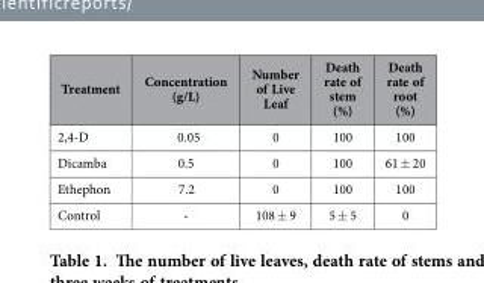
<table><thead><tr><td>Treatment</td><td>Concentration (g/L)</td><td>Number of Live Leaf</td><td>Death rate of stem (%)</td><td>Death rate of root (%)</td></tr></thead><tbody><tr><td>2,4-D</td><td>0.05</td><td>0</td><td>100</td><td>100</td></tr><tr><td>Dicamba</td><td>0.5</td><td>0</td><td>100</td><td>61 ± 20</td></tr><tr><td>Ethephon</td><td>7.2</td><td>0</td><td>100</td><td>100</td></tr><tr><td>Control</td><td>-</td><td>108 ± 9</td><td>5 ± 5</td><td>0</td></tr></tbody></table>